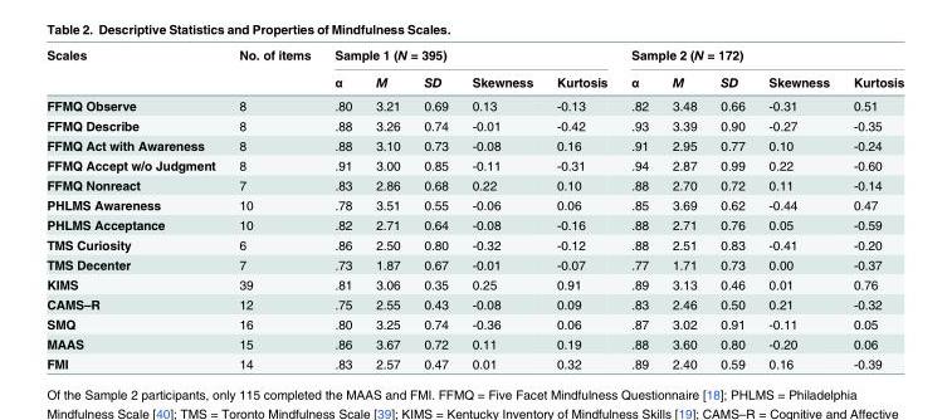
<table><thead><tr><td rowspan="2">Scales</td><td rowspan="2">No. of items</td><td colspan="5">Sample 1 (N = 395)</td><td colspan="5">Sample 2 (N = 172)</td></tr><tr><td>α</td><td>M</td><td>SD</td><td>Skewness</td><td>Kurtosis</td><td>α</td><td>M</td><td>SD</td><td>Skewness</td><td>Kurtosis</td></tr></thead><tbody><tr><td>FFMQ Observe</td><td>8</td><td>.80</td><td>3.21</td><td>0.69</td><td>0.13</td><td>-0.13</td><td>.82</td><td>3.48</td><td>0.66</td><td>-0.31</td><td>0.51</td></tr><tr><td>FFMQ Describe</td><td>8</td><td>.88</td><td>3.26</td><td>0.74</td><td>-0.01</td><td>-0.42</td><td>.93</td><td>3.39</td><td>0.90</td><td>-0.27</td><td>-0.35</td></tr><tr><td>FFMQ Act with Awareness</td><td>8</td><td>.88</td><td>3.10</td><td>0.73</td><td>-0.08</td><td>0.16</td><td>.91</td><td>2.95</td><td>0.77</td><td>0.10</td><td>-0.24</td></tr><tr><td>FFMQ Accept w/o Judgment</td><td>8</td><td>.91</td><td>3.00</td><td>0.85</td><td>-0.11</td><td>-0.31</td><td>.94</td><td>2.87</td><td>0.99</td><td>0.22</td><td>-0.60</td></tr><tr><td>FFMQ Nonreact</td><td>7</td><td>.83</td><td>2.86</td><td>0.68</td><td>0.22</td><td>0.10</td><td>.88</td><td>2.70</td><td>0.72</td><td>0.11</td><td>-0.14</td></tr><tr><td>PHLMS Awareness</td><td>10</td><td>.78</td><td>3.51</td><td>0.55</td><td>-0.06</td><td>0.06</td><td>.85</td><td>3.69</td><td>0.62</td><td>-0.44</td><td>0.47</td></tr><tr><td>PHLMS Acceptance</td><td>10</td><td>.82</td><td>2.71</td><td>0.64</td><td>-0.08</td><td>-0.16</td><td>.88</td><td>2.71</td><td>0.76</td><td>0.05</td><td>-0.59</td></tr><tr><td>TMS Curiosity</td><td>6</td><td>.86</td><td>2.50</td><td>0.80</td><td>-0.32</td><td>-0.12</td><td>.88</td><td>2.51</td><td>0.83</td><td>-0.41</td><td>-0.20</td></tr><tr><td>TMS Decenter</td><td>7</td><td>.73</td><td>1.87</td><td>0.67</td><td>-0.01</td><td>-0.07</td><td>.77</td><td>1.71</td><td>0.73</td><td>0.00</td><td>-0.37</td></tr><tr><td>KIMS</td><td>39</td><td>.81</td><td>3.06</td><td>0.35</td><td>0.25</td><td>0.91</td><td>.89</td><td>3.13</td><td>0.46</td><td>0.01</td><td>0.76</td></tr><tr><td>CAMS–R</td><td>12</td><td>.75</td><td>2.55</td><td>0.43</td><td>-0.08</td><td>0.09</td><td>.83</td><td>2.46</td><td>0.50</td><td>0.21</td><td>-0.32</td></tr><tr><td>SMQ</td><td>16</td><td>.80</td><td>3.25</td><td>0.74</td><td>-0.36</td><td>0.06</td><td>.87</td><td>3.02</td><td>0.91</td><td>-0.11</td><td>0.05</td></tr><tr><td>MAAS</td><td>15</td><td>.86</td><td>3.67</td><td>0.72</td><td>0.11</td><td>0.19</td><td>.88</td><td>3.60</td><td>0.80</td><td>-0.20</td><td>0.06</td></tr><tr><td>FMI</td><td>14</td><td>.83</td><td>2.57</td><td>0.47</td><td>0.01</td><td>0.32</td><td>.89</td><td>2.40</td><td>0.59</td><td>0.16</td><td>-0.39</td></tr></tbody></table>